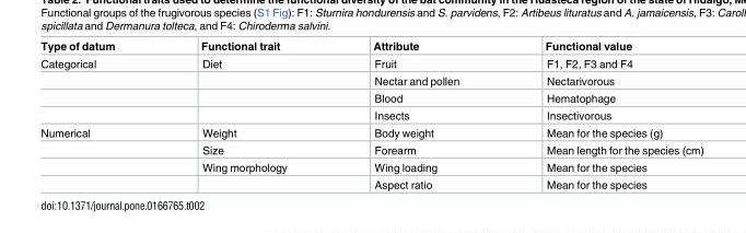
<table><thead><tr><td>Type of datum</td><td>Functional trait</td><td>Attribute</td><td>Functional value</td></tr></thead><tbody><tr><td rowspan="4">Categorical</td><td>Diet</td><td>Fruit</td><td>F1, F2, F3 and F4</td></tr><tr><td></td><td>Nectar and pollen</td><td>Nectarivorous</td></tr><tr><td></td><td>Blood</td><td>Hematophage</td></tr><tr><td></td><td>Insects</td><td>Insectivorous</td></tr><tr><td rowspan="4">Numerical</td><td>Weight</td><td>Body weight</td><td>Mean for the species (g)</td></tr><tr><td>Size</td><td>Forearm</td><td>Mean length for the species (cm)</td></tr><tr><td>Wing morphology</td><td>Wing loading</td><td>Mean for the species</td></tr><tr><td></td><td>Aspect ratio</td><td>Mean for the species</td></tr></tbody></table>